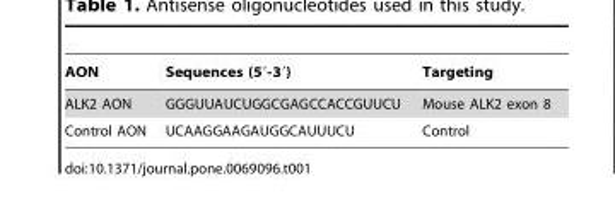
<table><thead><tr><td>AON</td><td>Sequences (5′-3′)</td><td>Targeting</td></tr></thead><tbody><tr><td>ALK2 AON</td><td>GGGUUAUCUGGCGAGCCACCGUUCU</td><td>Mouse ALK2 exon 8</td></tr><tr><td>Control AON</td><td>UCAAGGAAGAUGGCAUUUCU</td><td>Control</td></tr></tbody></table>